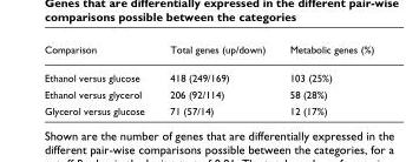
<table><thead><tr><td>Comparison</td><td>Total genes (up/down)</td><td>Metabolic genes (%)</td></tr></thead><tbody><tr><td>Ethanol versus glucose</td><td>418 (249/169)</td><td>103 (25%)</td></tr><tr><td>Ethanol versus glycerol</td><td>206 (92/114)</td><td>58 (28%)</td></tr><tr><td>Glycerol versus glucose</td><td>71 (57/14)</td><td>12 (17%)</td></tr></tbody></table>